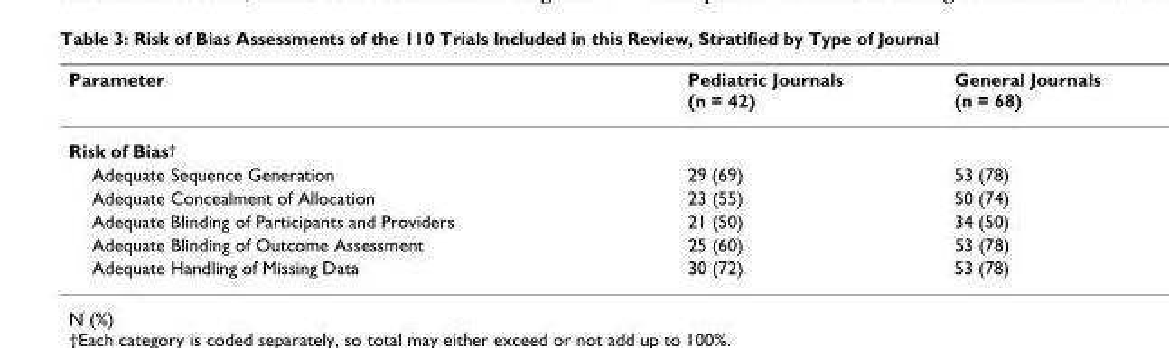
<table><thead><tr><td>Parameter</td><td>Pediatric Journals (n = 42)</td><td>General Journals (n = 68)</td></tr></thead><tbody><tr><td colspan="3">Risk of Bias<sup>†</sup></td></tr><tr><td>Adequate Sequence Generation</td><td>29 (69)</td><td>53 (78)</td></tr><tr><td>Adequate Concealment of Allocation</td><td>23 (55)</td><td>50 (74)</td></tr><tr><td>Adequate Blinding of Participants and Providers</td><td>21 (50)</td><td>34 (50)</td></tr><tr><td>Adequate Blinding of Outcome Assessment</td><td>25 (60)</td><td>53 (78)</td></tr><tr><td>Adequate Handling of Missing Data</td><td>30 (72)</td><td>53 (78)</td></tr></tbody></table>